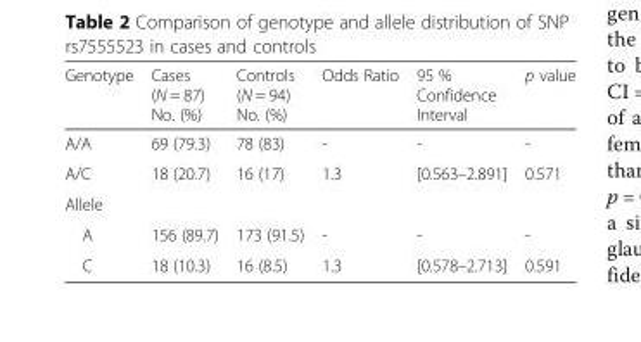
<table><thead><tr><td>Genotype</td><td>Cases (N = 87) No. (%)</td><td>Controls (N = 94) No. (%)</td><td>Odds Ratio</td><td>95 % Confidence Interval</td><td>p value</td></tr></thead><tbody><tr><td>A/A</td><td>69 (79.3)</td><td>78 (83)</td><td>-</td><td>-</td><td>-</td></tr><tr><td>A/C</td><td>18 (20.7)</td><td>16 (17)</td><td>1.3</td><td>[0.563–2.891]</td><td>0.571</td></tr><tr><td colspan="6">Allele</td></tr><tr><td>A</td><td>156 (89.7)</td><td>173 (91.5)</td><td>-</td><td>-</td><td>-</td></tr><tr><td>C</td><td>18 (10.3)</td><td>16 (8.5)</td><td>1.3</td><td>[0.578–2.713]</td><td>0.591</td></tr></tbody></table>